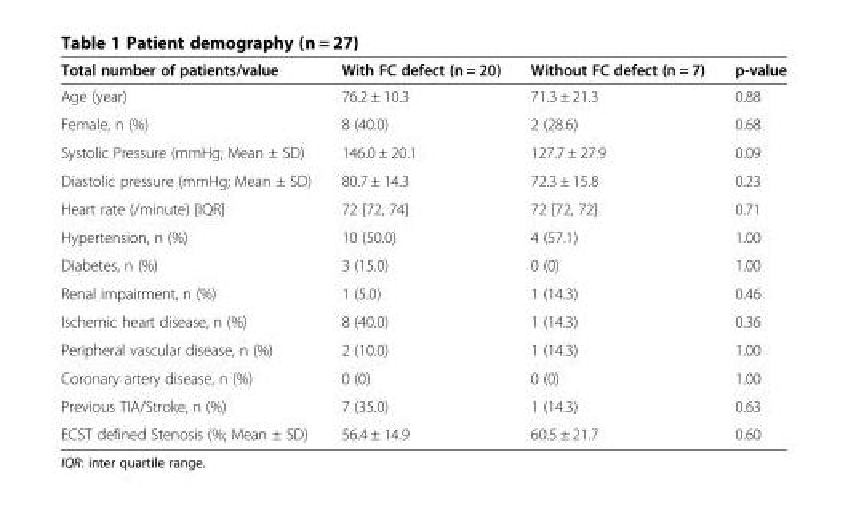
<table><thead><tr><td>Total number of patients/value</td><td>With FC defect (n = 20)</td><td>Without FC defect (n = 7)</td><td>p-value</td></tr></thead><tbody><tr><td>Age (year)</td><td>76.2 ± 10.3</td><td>71.3 ± 21.3</td><td>0.88</td></tr><tr><td>Female, n (%)</td><td>8 (40.0)</td><td>2 (28.6)</td><td>0.68</td></tr><tr><td>Systolic Pressure (mmHg; Mean ± SD)</td><td>146.0 ± 20.1</td><td>127.7 ± 27.9</td><td>0.09</td></tr><tr><td>Diastolic pressure (mmHg; Mean ± SD)</td><td>80.7 ± 14.3</td><td>72.3 ± 15.8</td><td>0.23</td></tr><tr><td>Heart rate (/minute) [IQR]</td><td>72 [72, 74]</td><td>72 [72, 72]</td><td>0.71</td></tr><tr><td>Hypertension, n (%)</td><td>10 (50.0)</td><td>4 (57.1)</td><td>1.00</td></tr><tr><td>Diabetes, n (%)</td><td>3 (15.0)</td><td>0 (0)</td><td>1.00</td></tr><tr><td>Renal impairment, n (%)</td><td>1 (5.0)</td><td>1 (14.3)</td><td>0.46</td></tr><tr><td>Ischemic heart disease, n (%)</td><td>8 (40.0)</td><td>1 (14.3)</td><td>0.36</td></tr><tr><td>Peripheral vascular disease, n (%)</td><td>2 (10.0)</td><td>1 (14.3)</td><td>1.00</td></tr><tr><td>Coronary artery disease, n (%)</td><td>0 (0)</td><td>0 (0)</td><td>1.00</td></tr><tr><td>Previous TIA/Stroke, n (%)</td><td>7 (35.0)</td><td>1 (14.3)</td><td>0.63</td></tr><tr><td>ECST defined Stenosis (%; Mean ± SD)</td><td>56.4 ± 14.9</td><td>60.5 ± 21.7</td><td>0.60</td></tr></tbody></table>